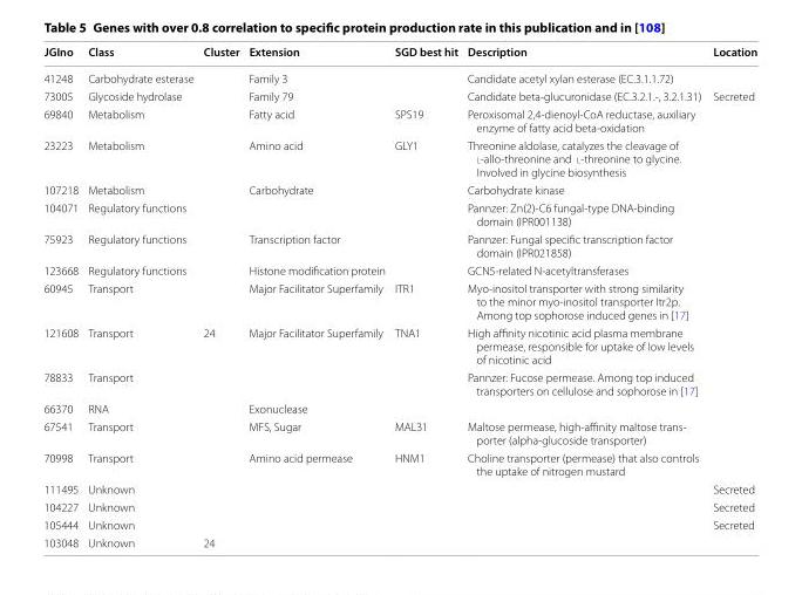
<table><thead><tr><td>JGIno</td><td>Class</td><td>Cluster</td><td>Extension</td><td>SGD best hit</td><td>Description</td><td>Location</td></tr></thead><tbody><tr><td>41248</td><td>Carbohydrate esterase</td><td></td><td>Family 3</td><td></td><td>Candidate acetyl xylan esterase (EC.3.1.1.72)</td><td></td></tr><tr><td>73005</td><td>Glycoside hydrolase</td><td></td><td>Family 79</td><td></td><td>Candidate beta-glucuronidase (EC.3.2.1.-, 3.2.1.31)</td><td>Secreted</td></tr><tr><td>69840</td><td>Metabolism</td><td></td><td>Fatty acid</td><td>SPS19</td><td>Peroxisomal 2,4-dienoyl-CoA reductase, auxiliary enzyme of fatty acid beta-oxidation</td><td></td></tr><tr><td>23223</td><td>Metabolism</td><td></td><td>Amino acid</td><td>GLY1</td><td>Threonine aldolase, catalyzes the cleavage of l-allo-threonine and l-threonine to glycine. Involved in glycine biosynthesis</td><td></td></tr><tr><td>107218</td><td>Metabolism</td><td></td><td>Carbohydrate</td><td></td><td>Carbohydrate kinase</td><td></td></tr><tr><td>104071</td><td>Regulatory functions</td><td></td><td></td><td></td><td>Pannzer: Zn(2)-C6 fungal-type DNA-binding domain (IPR001138)</td><td></td></tr><tr><td>75923</td><td>Regulatory functions</td><td></td><td>Transcription factor</td><td></td><td>Pannzer: Fungal specific transcription factor domain (IPR021858)</td><td></td></tr><tr><td>123668</td><td>Regulatory functions</td><td></td><td>Histone modification protein</td><td></td><td>GCN5-related N-acetyltransferases</td><td></td></tr><tr><td>60945</td><td>Transport</td><td></td><td>Major Facilitator Superfamily</td><td>ITR1</td><td>Myo-inositol transporter with strong similarity to the minor myo-inositol transporter Itr2p. Among top sophorose induced genes in [17]</td><td></td></tr><tr><td>121608</td><td>Transport</td><td>24</td><td>Major Facilitator Superfamily</td><td>TNA1</td><td>High affinity nicotinic acid plasma membrane permease, responsible for uptake of low levels of nicotinic acid</td><td></td></tr><tr><td>78833</td><td>Transport</td><td></td><td></td><td></td><td>Pannzer: Fucose permease. Among top induced transporters on cellulose and sophorose in [17]</td><td></td></tr><tr><td>66370</td><td>RNA</td><td></td><td>Exonuclease</td><td></td><td></td><td></td></tr><tr><td>67541</td><td>Transport</td><td></td><td>MFS, Sugar</td><td>MAL31</td><td>Maltose permease, high-affinity maltose trans- porter (alpha-glucoside transporter)</td><td></td></tr><tr><td>70998</td><td>Transport</td><td></td><td>Amino acid permease</td><td>HNM1</td><td>Choline transporter (permease) that also controls the uptake of nitrogen mustard</td><td></td></tr><tr><td>111495</td><td>Unknown</td><td></td><td></td><td></td><td></td><td>Secreted</td></tr><tr><td>104227</td><td>Unknown</td><td></td><td></td><td></td><td></td><td>Secreted</td></tr><tr><td>105444</td><td>Unknown</td><td></td><td></td><td></td><td></td><td>Secreted</td></tr><tr><td>103048</td><td>Unknown</td><td>24</td><td></td><td></td><td></td><td></td></tr></tbody></table>